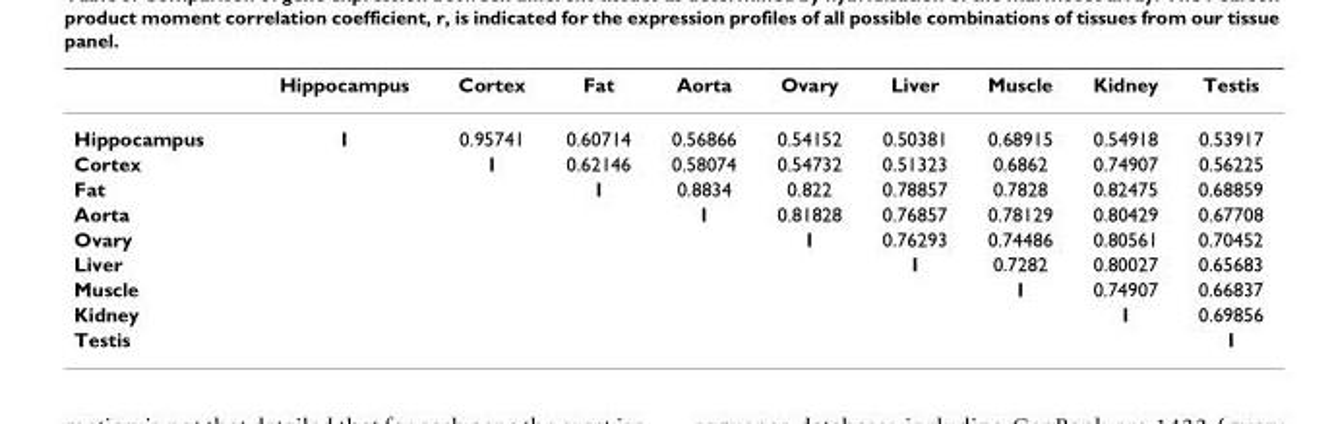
<table><thead><tr><td></td><td>Hippocampus</td><td>Cortex</td><td>Fat</td><td>Aorta</td><td>Ovary</td><td>Liver</td><td>Muscle</td><td>Kidney</td><td>Testis</td></tr></thead><tbody><tr><td>Hippocampus</td><td>1</td><td>0.95741</td><td>0.60714</td><td>0.56866</td><td>0.54152</td><td>0.50381</td><td>0.68915</td><td>0.54918</td><td>0.53917</td></tr><tr><td>Cortex</td><td></td><td>1</td><td>0.62146</td><td>0.58074</td><td>0.54732</td><td>0.51323</td><td>0.6862</td><td>0.74907</td><td>0.56225</td></tr><tr><td>Fat</td><td></td><td></td><td>1</td><td>0.8834</td><td>0.822</td><td>0.78857</td><td>0.7828</td><td>0.82475</td><td>0.68859</td></tr><tr><td>Aorta</td><td></td><td></td><td></td><td>1</td><td>0.81828</td><td>0.76857</td><td>0.78129</td><td>0.80429</td><td>0.67708</td></tr><tr><td>Ovary</td><td></td><td></td><td></td><td></td><td>1</td><td>0.76293</td><td>0.74486</td><td>0.80561</td><td>0.70452</td></tr><tr><td>Liver</td><td></td><td></td><td></td><td></td><td></td><td>1</td><td>0.7282</td><td>0.80027</td><td>0.65683</td></tr><tr><td>Muscle</td><td></td><td></td><td></td><td></td><td></td><td></td><td>1</td><td>0.74907</td><td>0.66837</td></tr><tr><td>Kidney</td><td></td><td></td><td></td><td></td><td></td><td></td><td></td><td>1</td><td>0.69856</td></tr><tr><td>Testis</td><td></td><td></td><td></td><td></td><td></td><td></td><td></td><td></td><td>1</td></tr></tbody></table>